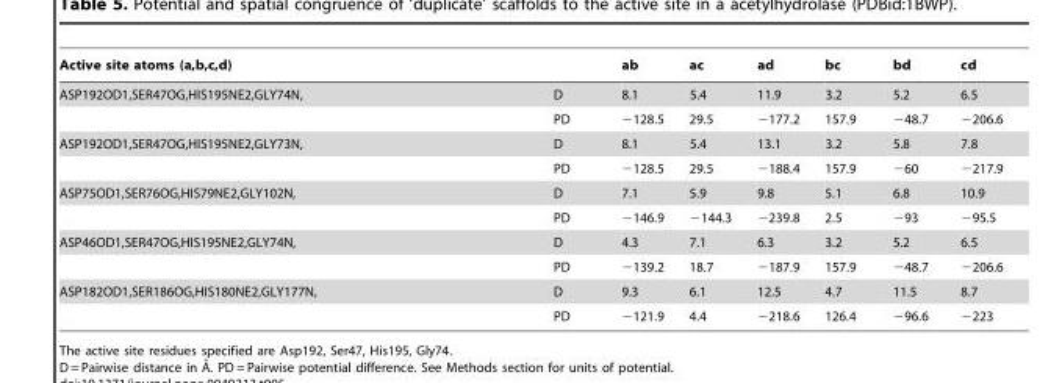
<table><thead><tr><td>Active site atoms (a,b,c,d)</td><td></td><td>ab</td><td>ac</td><td>ad</td><td>bc</td><td>bd</td><td>cd</td></tr></thead><tbody><tr><td rowspan="2">ASP192OD1,SER47OG,HIS195NE2,GLY74N,</td><td>D</td><td>8.1</td><td>5.4</td><td>11.9</td><td>3.2</td><td>5.2</td><td>6.5</td></tr><tr><td>PD</td><td>−128.5</td><td>29.5</td><td>−177.2</td><td>157.9</td><td>−48.7</td><td>−206.6</td></tr><tr><td rowspan="2">ASP192OD1,SER47OG,HIS195NE2,GLY73N,</td><td>D</td><td>8.1</td><td>5.4</td><td>13.1</td><td>3.2</td><td>5.8</td><td>7.8</td></tr><tr><td>PD</td><td>−128.5</td><td>29.5</td><td>−188.4</td><td>157.9</td><td>−60</td><td>−217.9</td></tr><tr><td rowspan="2">ASP75OD1,SER76OG,HIS79NE2,GLY102N,</td><td>D</td><td>7.1</td><td>5.9</td><td>9.8</td><td>5.1</td><td>6.8</td><td>10.9</td></tr><tr><td>PD</td><td>−146.9</td><td>−144.3</td><td>−239.8</td><td>2.5</td><td>−93</td><td>−95.5</td></tr><tr><td rowspan="2">ASP46OD1,SER47OG,HIS195NE2,GLY74N,</td><td>D</td><td>4.3</td><td>7.1</td><td>6.3</td><td>3.2</td><td>5.2</td><td>6.5</td></tr><tr><td>PD</td><td>−139.2</td><td>18.7</td><td>−187.9</td><td>157.9</td><td>−48.7</td><td>−206.6</td></tr><tr><td rowspan="2">ASP182OD1,SER186OG,HIS180NE2,GLY177N,</td><td>D</td><td>9.3</td><td>6.1</td><td>12.5</td><td>4.7</td><td>11.5</td><td>8.7</td></tr><tr><td>PD</td><td>−121.9</td><td>4.4</td><td>−218.6</td><td>126.4</td><td>−96.6</td><td>−223</td></tr></tbody></table>